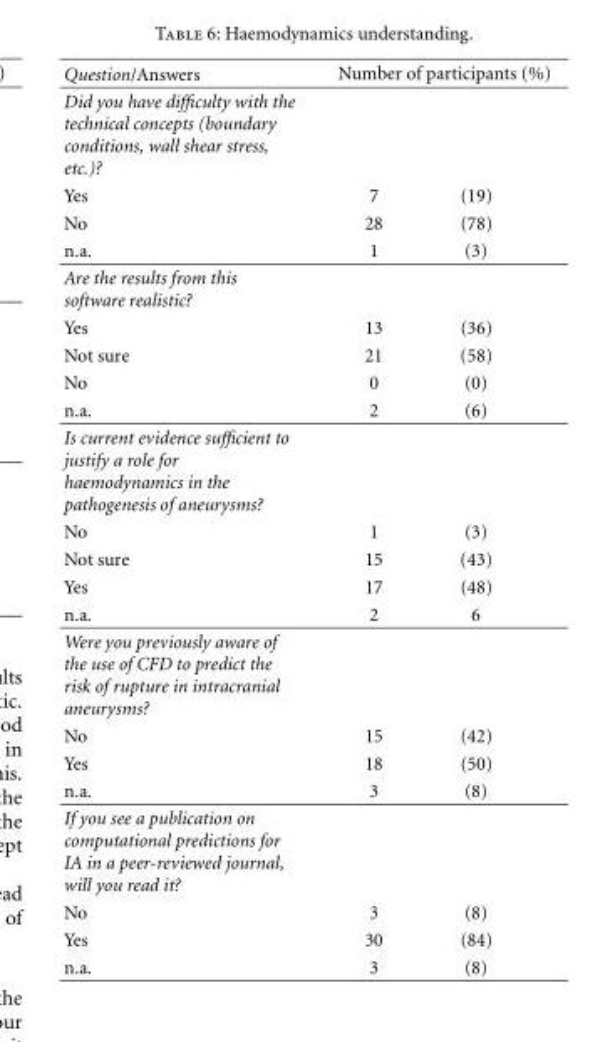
<table><thead><tr><td rowspan="3">Question/Answers Did you have difficulty with the technical concepts (boundary conditions, wall shear stress, etc.)? Yes</td><td rowspan="2" colspan="2">Number of participants (%)</td></tr><tr></tr><tr><td>7</td><td>(19)</td></tr></thead><tbody><tr><td>No</td><td>28</td><td>(78)</td></tr><tr><td>n.a.</td><td>1</td><td>(3)</td></tr><tr><td colspan="3">Are the results from this software realistic?</td></tr><tr><td>Yes</td><td>13</td><td>(36)</td></tr><tr><td>Not sure</td><td>21</td><td>(58)</td></tr><tr><td>No</td><td>0</td><td>(0)</td></tr><tr><td>n.a.</td><td>2</td><td>(6)</td></tr><tr><td colspan="3">Is current evidence sufficient to justify a role for haemodynamics in the pathogenesis of aneurysms?</td></tr><tr><td>No</td><td>1</td><td>(3)</td></tr><tr><td>Not sure</td><td>15</td><td>(43)</td></tr><tr><td>Yes</td><td>17</td><td>(48)</td></tr><tr><td>n.a.</td><td>2</td><td>6</td></tr><tr><td colspan="3">Were you previously aware of the use of CFD to predict the risk of rupture in intracranial aneurysms?</td></tr><tr><td>No</td><td>15</td><td>(42)</td></tr><tr><td>Yes</td><td>18</td><td>(50)</td></tr><tr><td>n.a.</td><td>3</td><td>(8)</td></tr><tr><td colspan="3">If you see a publication on computational predictions for IA in a peer-reviewed journal, will you read it?</td></tr><tr><td>No</td><td>3</td><td>(8)</td></tr><tr><td>Yes</td><td>30</td><td>(84)</td></tr><tr><td>n.a.</td><td>3</td><td>(8)</td></tr></tbody></table>